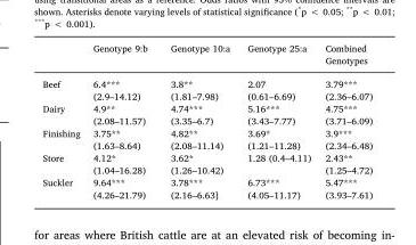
<table><thead><tr><td></td><td>Genotype 9:b</td><td>Genotype 10:a</td><td>Genotype 25:a</td><td>Combined Genotypes</td></tr></thead><tbody><tr><td>Beef</td><td>6.4*** (2.9–14.12)</td><td>3.8** (1.81–7.98)</td><td>2.07 (0.61–6.69)</td><td>3.79*** (2.36–6.07)</td></tr><tr><td>Dairy</td><td>4.9** (2.08–11.57)</td><td>4.74*** (3.35–6.7)</td><td>5.16*** (3.43–7.77)</td><td>4.75*** (3.71–6.09)</td></tr><tr><td>Finishing</td><td>3.75** (1.63–8.64)</td><td>4.82** (2.08–11.14)</td><td>3.69* (1.21–11.28)</td><td>3.9*** (2.34–6.48)</td></tr><tr><td>Store</td><td>4.12* (1.04–16.28)</td><td>3.62* (1.26–10.42)</td><td>1.28 (0.4–4.11)</td><td>2.43** (1.25–4.72)</td></tr><tr><td>Suckler</td><td>9.64*** (4.26–21.79)</td><td>3.78*** (2.16–6.63]</td><td>6.73*** (4.05–11.17)</td><td>5.47*** (3.93–7.61)</td></tr></tbody></table>